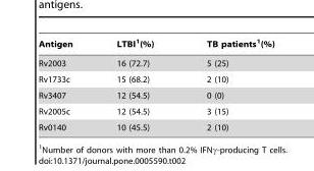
<table><thead><tr><td>Antigen</td><td>LTBI<sup>1</sup>(%)</td><td>TB patients<sup>1</sup>(%)</td></tr></thead><tbody><tr><td>Rv2003</td><td>16 (72.7)</td><td>5 (25)</td></tr><tr><td>Rv1733c</td><td>15 (68.2)</td><td>2 (10)</td></tr><tr><td>Rv3407</td><td>12 (54.5)</td><td>0 (0)</td></tr><tr><td>Rv2005c</td><td>12 (54.5)</td><td>3 (15)</td></tr><tr><td>Rv0140</td><td>10 (45.5)</td><td>2 (10)</td></tr></tbody></table>